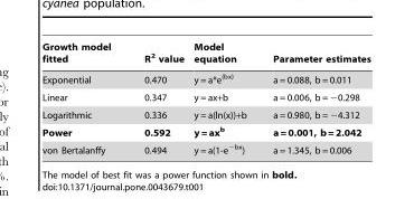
<table><thead><tr><td>Growth model fitted</td><td>R<sup>2</sup> value</td><td>Model equation</td><td>Parameter estimates</td></tr></thead><tbody><tr><td>Exponential</td><td>0.470</td><td>y = a*e<sup>(bx)</sup></td><td>a = 0.088, b = 0.011</td></tr><tr><td>Linear</td><td>0.347</td><td>y = ax+b</td><td>a = 0.006, b = −0.298</td></tr><tr><td>Logarithmic</td><td>0.336</td><td>y = a(ln(x))+b</td><td>a = 0.980, b = −4.312</td></tr><tr><td>Power</td><td>0.592</td><td>y = ax<sup>b</sup></td><td>a = 0.001, b = 2.042</td></tr><tr><td>von Bertalanffy</td><td>0.494</td><td>y = a(1-e<sup>−bx</sup>)</td><td>a = 1.345, b = 0.006</td></tr></tbody></table>